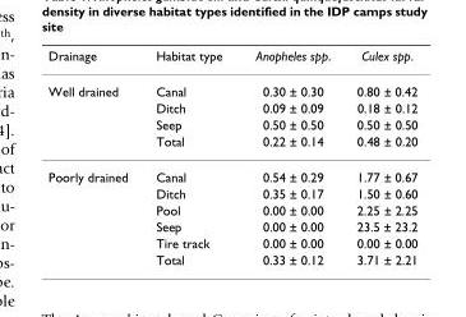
<table><thead><tr><td>Drainage</td><td>Habitat type</td><td>Anopheles spp.</td><td>Culex spp.</td></tr></thead><tbody><tr><td rowspan="4">Well drained</td><td>Canal</td><td>0.30 ± 0.30</td><td>0.80 ± 0.42</td></tr><tr><td>Ditch</td><td>0.09 ± 0.09</td><td>0.18 ± 0.12</td></tr><tr><td>Seep</td><td>0.50 ± 0.50</td><td>0.50 ± 0.50</td></tr><tr><td>Total</td><td>0.22 ± 0.14</td><td>0.48 ± 0.20</td></tr><tr><td rowspan="6">Poorly drained</td><td>Canal</td><td>0.54 ± 0.29</td><td>1.77 ± 0.67</td></tr><tr><td>Ditch</td><td>0.35 ± 0.17</td><td>1.50 ± 0.60</td></tr><tr><td>Pool</td><td>0.00 ± 0.00</td><td>2.25 ± 2.25</td></tr><tr><td>Seep</td><td>0.00 ± 0.00</td><td>23.5 ± 23.2</td></tr><tr><td>Tire track</td><td>0.00 ± 0.00</td><td>0.00 ± 0.00</td></tr><tr><td>Total</td><td>0.33 ± 0.12</td><td>3.71 ± 2.21</td></tr></tbody></table>